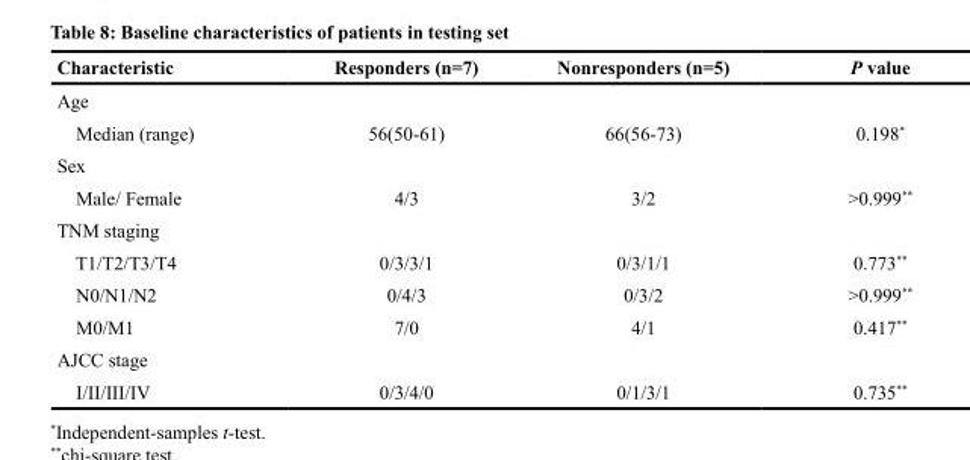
<table><thead><tr><td>Characteristic</td><td>Responders (n=7)</td><td>Nonresponders (n=5)</td><td>P value</td></tr></thead><tbody><tr><td colspan="4">Age</td></tr><tr><td>Median (range)</td><td>56(50-61)</td><td>66(56-73)</td><td>0.198*</td></tr><tr><td colspan="4">Sex</td></tr><tr><td>Male/ Female</td><td>4/3</td><td>3/2</td><td>&gt;0.999**</td></tr><tr><td colspan="4">TNM staging</td></tr><tr><td>T1/T2/T3/T4</td><td>0/3/3/1</td><td>0/3/1/1</td><td>0.773**</td></tr><tr><td>N0/N1/N2</td><td>0/4/3</td><td>0/3/2</td><td>&gt;0.999**</td></tr><tr><td>M0/M1</td><td>7/0</td><td>4/1</td><td>0.417**</td></tr><tr><td colspan="4">AJCC stage</td></tr><tr><td>I/II/III/IV</td><td>0/3/4/0</td><td>0/1/3/1</td><td>0.735**</td></tr></tbody></table>